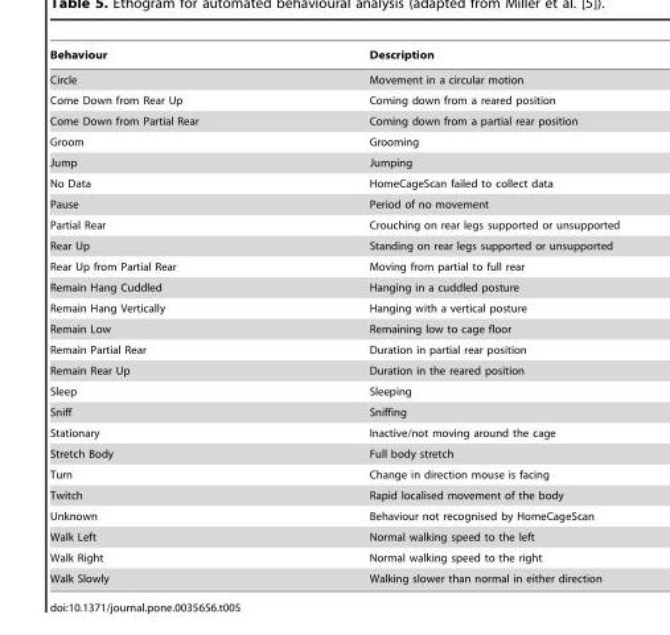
<table><thead><tr><td>Behaviour</td><td>Description</td></tr></thead><tbody><tr><td>Circle</td><td>Movement in a circular motion</td></tr><tr><td>Come Down from Rear Up</td><td>Coming down from a reared position</td></tr><tr><td>Come Down from Partial Rear</td><td>Coming down from a partial rear position</td></tr><tr><td>Groom</td><td>Grooming</td></tr><tr><td>Jump</td><td>Jumping</td></tr><tr><td>No Data</td><td>HomeCageScan failed to collect data</td></tr><tr><td>Pause</td><td>Period of no movement</td></tr><tr><td>Partial Rear</td><td>Crouching on rear legs supported or unsupported</td></tr><tr><td>Rear Up</td><td>Standing on rear legs supported or unsupported</td></tr><tr><td>Rear Up from Partial Rear</td><td>Moving from partial to full rear</td></tr><tr><td>Remain Hang Cuddled</td><td>Hanging in a cuddled posture</td></tr><tr><td>Remain Hang Vertically</td><td>Hanging with a vertical posture</td></tr><tr><td>Remain Low</td><td>Remaining low to cage floor</td></tr><tr><td>Remain Partial Rear</td><td>Duration in partial rear position</td></tr><tr><td>Remain Rear Up</td><td>Duration in the reared position</td></tr><tr><td>Sleep</td><td>Sleeping</td></tr><tr><td>Sniff</td><td>Sniffing</td></tr><tr><td>Stationary</td><td>Inactive/not moving around the cage</td></tr><tr><td>Stretch Body</td><td>Full body stretch</td></tr><tr><td>Turn</td><td>Change in direction mouse is facing</td></tr><tr><td>Twitch</td><td>Rapid localised movement of the body</td></tr><tr><td>Unknown</td><td>Behaviour not recognised by HomeCageScan</td></tr><tr><td>Walk Left</td><td>Normal walking speed to the left</td></tr><tr><td>Walk Right</td><td>Normal walking speed to the right</td></tr><tr><td>Walk Slowly</td><td>Walking slower than normal in either direction</td></tr></tbody></table>